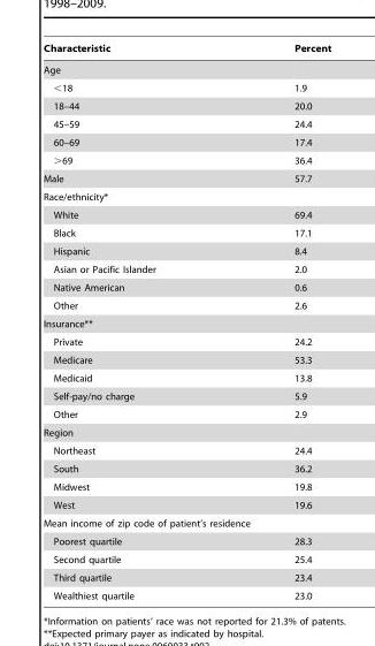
<table><thead><tr><td>Characteristic</td><td>Percent</td></tr></thead><tbody><tr><td colspan="2">Age</td></tr><tr><td>&lt;18</td><td>1.9</td></tr><tr><td>18–44</td><td>20.0</td></tr><tr><td>45–59</td><td>24.4</td></tr><tr><td>60–69</td><td>17.4</td></tr><tr><td>&gt;69</td><td>36.4</td></tr><tr><td>Male</td><td>57.7</td></tr><tr><td colspan="2">Race/ethnicity*</td></tr><tr><td>White</td><td>69.4</td></tr><tr><td>Black</td><td>17.1</td></tr><tr><td>Hispanic</td><td>8.4</td></tr><tr><td>Asian or Pacific Islander</td><td>2.0</td></tr><tr><td>Native American</td><td>0.6</td></tr><tr><td>Other</td><td>2.6</td></tr><tr><td colspan="2">Insurance**</td></tr><tr><td>Private</td><td>24.2</td></tr><tr><td>Medicare</td><td>53.3</td></tr><tr><td>Medicaid</td><td>13.8</td></tr><tr><td>Self-pay/no charge</td><td>5.9</td></tr><tr><td>Other</td><td>2.9</td></tr><tr><td colspan="2">Region</td></tr><tr><td>Northeast</td><td>24.4</td></tr><tr><td>South</td><td>36.2</td></tr><tr><td>Midwest</td><td>19.8</td></tr><tr><td>West</td><td>19.6</td></tr><tr><td colspan="2">Mean income of zip code of patient’s residence</td></tr><tr><td>Poorest quartile</td><td>28.3</td></tr><tr><td>Second quartile</td><td>25.4</td></tr><tr><td>Third quartile</td><td>23.4</td></tr><tr><td>Wealthiest quartile</td><td>23.0</td></tr></tbody></table>